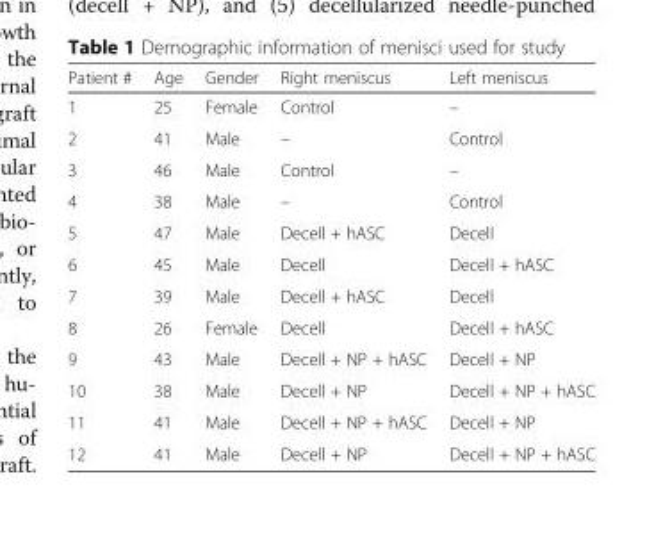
<table><thead><tr><td>Patient #</td><td>Age</td><td>Gender</td><td>Right meniscus</td><td>Left meniscus</td></tr></thead><tbody><tr><td>1</td><td>25</td><td>Female</td><td>Control</td><td>–</td></tr><tr><td>2</td><td>41</td><td>Male</td><td>–</td><td>Control</td></tr><tr><td>3</td><td>46</td><td>Male</td><td>Control</td><td>–</td></tr><tr><td>4</td><td>38</td><td>Male</td><td>–</td><td>Control</td></tr><tr><td>5</td><td>47</td><td>Male</td><td>Decell + hASC</td><td>Decell</td></tr><tr><td>6</td><td>45</td><td>Male</td><td>Decell</td><td>Decell + hASC</td></tr><tr><td>7</td><td>39</td><td>Male</td><td>Decell + hASC</td><td>Decell</td></tr><tr><td>8</td><td>26</td><td>Female</td><td>Decell</td><td>Decell + hASC</td></tr><tr><td>9</td><td>43</td><td>Male</td><td>Decell + NP + hASC</td><td>Decell + NP</td></tr><tr><td>10</td><td>38</td><td>Male</td><td>Decell + NP</td><td>Decell + NP + hASC</td></tr><tr><td>11</td><td>41</td><td>Male</td><td>Decell + NP + hASC</td><td>Decell + NP</td></tr><tr><td>12</td><td>41</td><td>Male</td><td>Decell + NP</td><td>Decell + NP + hASC</td></tr></tbody></table>